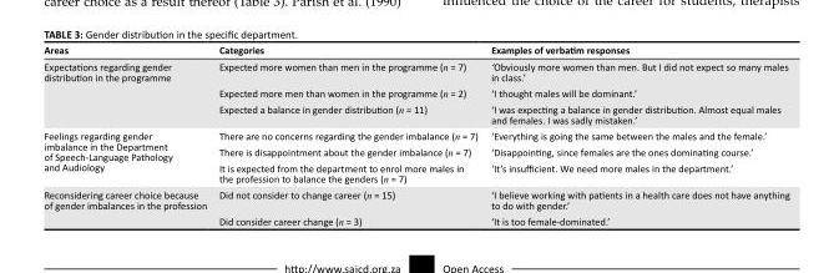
<table><thead><tr><td>Areas</td><td>Categories</td><td>Examples of verbatim responses</td></tr></thead><tbody><tr><td rowspan="3">Expectations regarding gender distribution in the programme</td><td>Expected more women than men in the programme (n = 7)</td><td>‘Obviously more women than men. But I did not expect so many males in class.’</td></tr><tr><td>Expected more men than women in the programme (n = 2)</td><td>‘I thought males will be dominant.’</td></tr><tr><td>Expected a balance in gender distribution (n = 11)</td><td>‘I was expecting a balance in gender distribution. Almost equal males and females. I was sadly mistaken.’</td></tr><tr><td rowspan="3">Feelings regarding gender imbalance in the Department of Speech-Language Pathology and Audiology</td><td>There are no concerns regarding the gender imbalance (n = 7)</td><td>‘Everything is going the same between the males and the female.’</td></tr><tr><td>There is disappointment about the gender imbalance (n = 7)</td><td>‘Disappointing, since females are the ones dominating course.’</td></tr><tr><td>It is expected from the department to enrol more males in the profession to balance the genders (n = 7)</td><td>‘It’s insufficient. We need more males in the department.’</td></tr><tr><td rowspan="2">Reconsidering career choice because of gender imbalances in the profession</td><td>Did not consider to change career (n = 15)</td><td>‘I believe working with patients in a health care does not have anything to do with gender.’</td></tr><tr><td>Did consider career change (n = 3)</td><td>‘It is too female-dominated.’</td></tr></tbody></table>